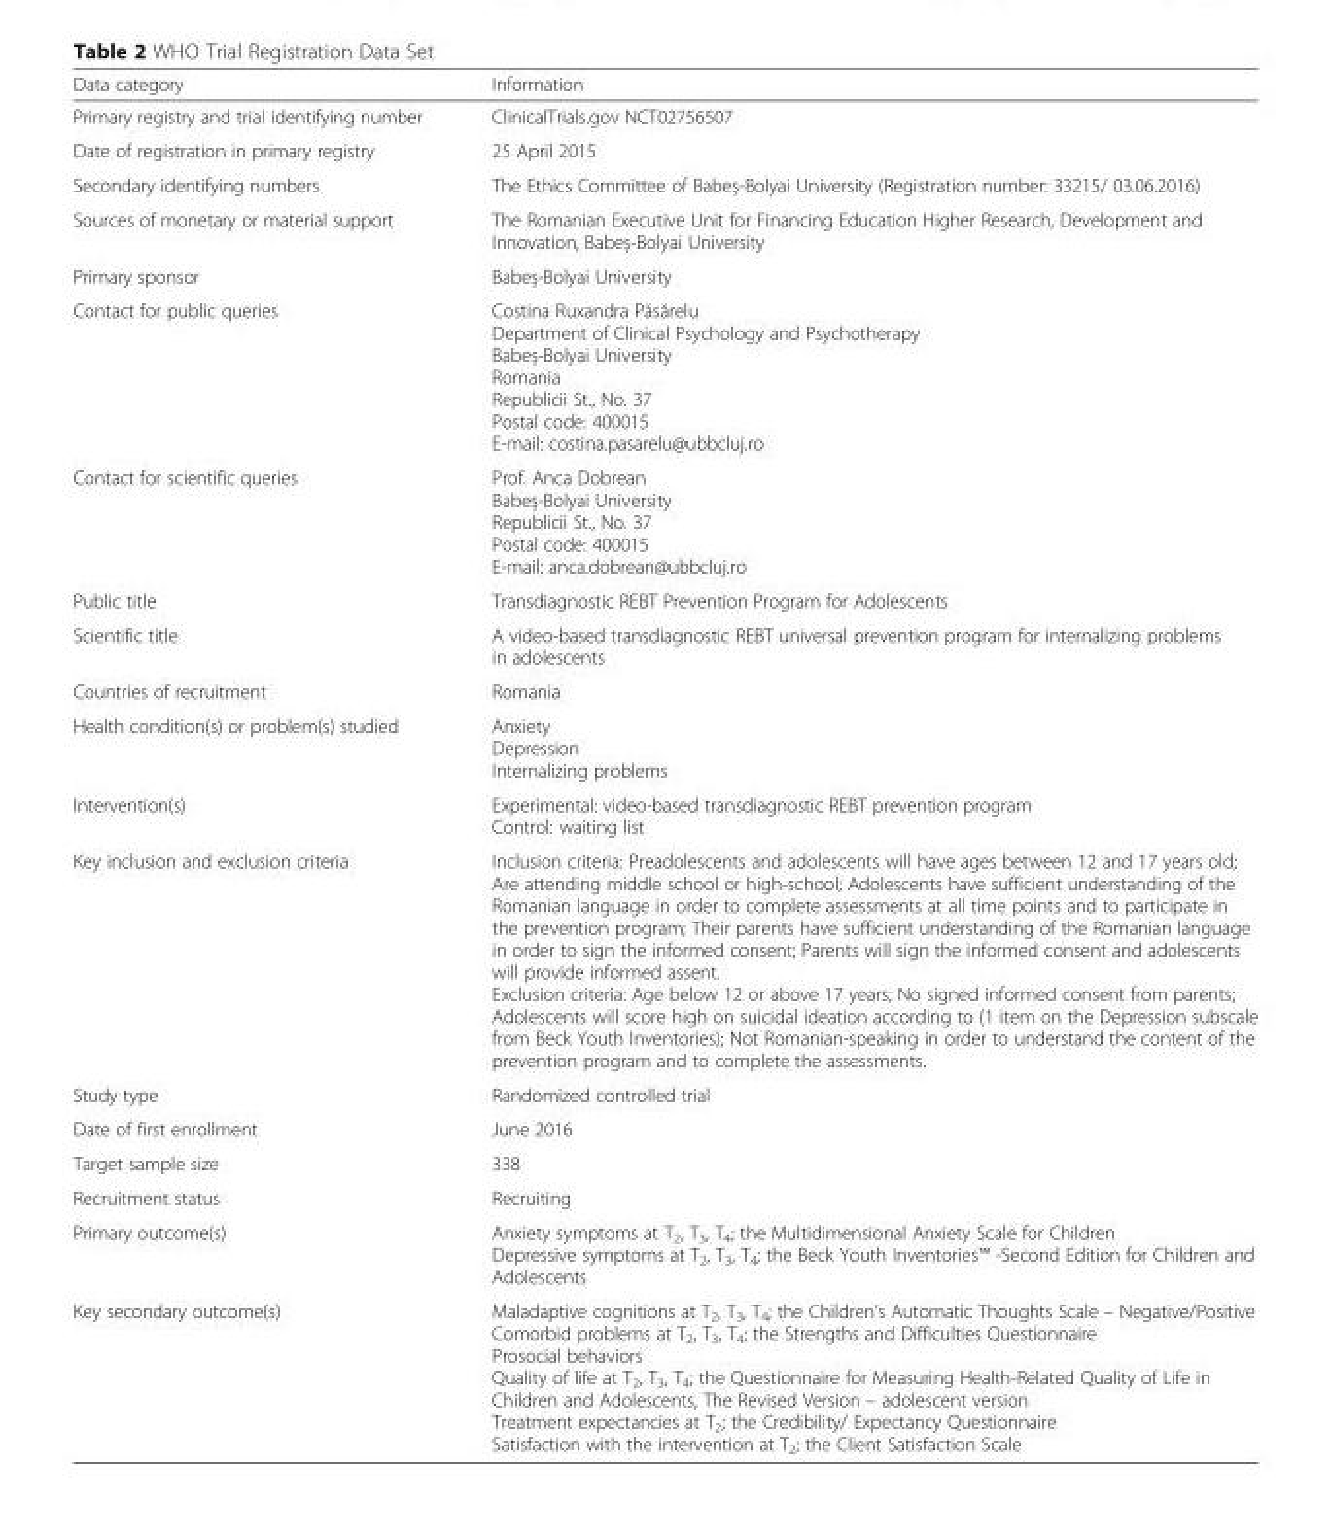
<table><thead><tr><td>Data category</td><td>Information</td></tr></thead><tbody><tr><td>Primary registry and trial identifying number</td><td>ClinicalTrials.gov NCT02756507</td></tr><tr><td>Date of registration in primary registry</td><td>25 April 2015</td></tr><tr><td>Secondary identifying numbers</td><td>The Ethics Committee of Babeș-Bolyai University (Registration number: 33215/ 03.06.2016)</td></tr><tr><td>Sources of monetary or material support</td><td>The Romanian Executive Unit for Financing Education Higher Research, Development and Innovation, Babeș-Bolyai University</td></tr><tr><td>Primary sponsor</td><td>Babeș-Bolyai University</td></tr><tr><td>Contact for public queries</td><td>Costina Ruxandra Păsărelu Department of Clinical Psychology and Psychotherapy Babeș-Bolyai University Romania Republicii St., No. 37 Postal code: 400015 E-mail: costina.pasarelu@ubbcluj.ro</td></tr><tr><td>Contact for scientific queries</td><td>Prof. Anca Dobrean Babeș-Bolyai University Republicii St., No. 37 Postal code: 400015 E-mail: anca.dobrean@ubbcluj.ro</td></tr><tr><td>Public title</td><td>Transdiagnostic REBT Prevention Program for Adolescents</td></tr><tr><td>Scientific title</td><td>A video-based transdiagnostic REBT universal prevention program for internalizing problems in adolescents</td></tr><tr><td>Countries of recruitment</td><td>Romania</td></tr><tr><td>Health condition(s) or problem(s) studied</td><td>Anxiety Depression Internalizing problems</td></tr><tr><td>Intervention(s)</td><td>Experimental: video-based transdiagnostic REBT prevention program Control: waiting list</td></tr><tr><td>Key inclusion and exclusion criteria</td><td>Inclusion criteria: Preadolescents and adolescents will have ages between 12 and 17 years old; Are attending middle school or high-school; Adolescents have sufficient understanding of the Romanian language in order to complete assessments at all time points and to participate in the prevention program; Their parents have sufficient understanding of the Romanian language in order to sign the informed consent; Parents will sign the informed consent and adolescents will provide informed assent. Exclusion criteria: Age below 12 or above 17 years; No signed informed consent from parents; Adolescents will score high on suicidal ideation according to (1 item on the Depression subscale from Beck Youth Inventories); Not Romanian-speaking in order to understand the content of the prevention program and to complete the assessments.</td></tr><tr><td>Study type</td><td>Randomized controlled trial</td></tr><tr><td>Date of first enrollment</td><td>June 2016</td></tr><tr><td>Target sample size</td><td>338</td></tr><tr><td>Recruitment status</td><td>Recruiting</td></tr><tr><td>Primary outcome(s)</td><td>Anxiety symptoms at T<sub>2</sub>, T<sub>3</sub>, T<sub>4</sub>; the Multidimensional Anxiety Scale for Children Depressive symptoms at T<sub>2</sub>, T<sub>3</sub>, T<sub>4</sub>; the Beck Youth Inventories™ -Second Edition for Children and Adolescents</td></tr><tr><td>Key secondary outcome(s)</td><td>Maladaptive cognitions at T<sub>2</sub>, T<sub>3</sub>, T<sub>4</sub>; the Children’s Automatic Thoughts Scale – Negative/Positive Comorbid problems at T<sub>2</sub>, T<sub>3</sub>, T<sub>4</sub>; the Strengths and Difficulties Questionnaire Prosocial behaviors Quality of life at T<sub>2</sub>, T<sub>3</sub>, T<sub>4</sub>; the Questionnaire for Measuring Health-Related Quality of Life in Children and Adolescents, The Revised Version – adolescent version Treatment expectancies at T<sub>2</sub>; the Credibility/ Expectancy Questionnaire Satisfaction with the intervention at T<sub>2</sub>; the Client Satisfaction Scale</td></tr></tbody></table>